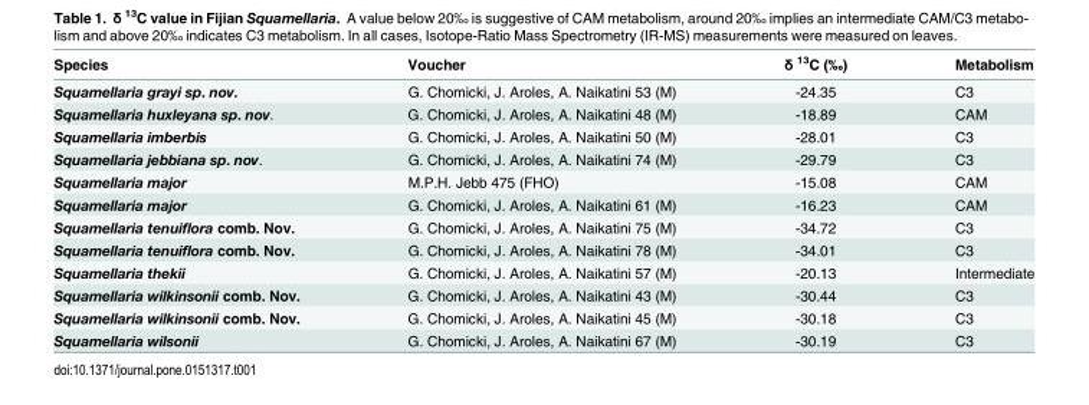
<table><thead><tr><td>Species</td><td>Voucher</td><td>δ <sup>13</sup>C (‰)</td><td>Metabolism</td></tr></thead><tbody><tr><td>Squamellaria grayi sp. nov.</td><td>G. Chomicki, J. Aroles, A. Naikatini 53 (M)</td><td>-24.35</td><td>C3</td></tr><tr><td>Squamellaria huxleyana sp. nov.</td><td>G. Chomicki, J. Aroles, A. Naikatini 48 (M)</td><td>-18.89</td><td>CAM</td></tr><tr><td>Squamellaria imberbis</td><td>G. Chomicki, J. Aroles, A. Naikatini 50 (M)</td><td>-28.01</td><td>C3</td></tr><tr><td>Squamellaria jebbiana sp. nov.</td><td>G. Chomicki, J. Aroles, A. Naikatini 74 (M)</td><td>-29.79</td><td>C3</td></tr><tr><td>Squamellaria major</td><td>M.P.H. Jebb 475 (FHO)</td><td>-15.08</td><td>CAM</td></tr><tr><td>Squamellaria major</td><td>G. Chomicki, J. Aroles, A. Naikatini 61 (M)</td><td>-16.23</td><td>CAM</td></tr><tr><td>Squamellaria tenuiflora comb. Nov.</td><td>G. Chomicki, J. Aroles, A. Naikatini 75 (M)</td><td>-34.72</td><td>C3</td></tr><tr><td>Squamellaria tenuiflora comb. Nov.</td><td>G. Chomicki, J. Aroles, A. Naikatini 78 (M)</td><td>-34.01</td><td>C3</td></tr><tr><td>Squamellaria thekii</td><td>G. Chomicki, J. Aroles, A. Naikatini 57 (M)</td><td>-20.13</td><td>Intermediate</td></tr><tr><td>Squamellaria wilkinsonii comb. Nov.</td><td>G. Chomicki, J. Aroles, A. Naikatini 43 (M)</td><td>-30.44</td><td>C3</td></tr><tr><td>Squamellaria wilkinsonii comb. Nov.</td><td>G. Chomicki, J. Aroles, A. Naikatini 45 (M)</td><td>-30.18</td><td>C3</td></tr><tr><td>Squamellaria wilsonii</td><td>G. Chomicki, J. Aroles, A. Naikatini 67 (M)</td><td>-30.19</td><td>C3</td></tr></tbody></table>